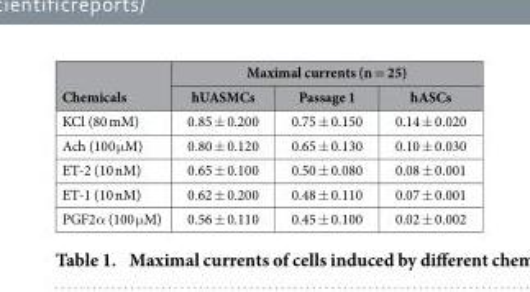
<table><thead><tr><td rowspan="2">Chemicals</td><td colspan="3">Maximal currents (n = 25)</td></tr><tr><td>hUASMCs</td><td>Passage 1</td><td>hASCs</td></tr></thead><tbody><tr><td>KCl (80 mM)</td><td>0.85 ± 0.200</td><td>0.75 ± 0.150</td><td>0.14 ± 0.020</td></tr><tr><td>Ach (100 μ M)</td><td>0.80 ± 0.120</td><td>0.65 ± 0.130</td><td>0.10 ± 0.030</td></tr><tr><td>ET-2 (10 nM)</td><td>0.65 ± 0.100</td><td>0.50 ± 0.080</td><td>0.08 ± 0.001</td></tr><tr><td>ET-1 (10 nM)</td><td>0.62 ± 0.200</td><td>0.48 ± 0.110</td><td>0.07 ± 0.001</td></tr><tr><td>PGF2α (100 μ M)</td><td>0.56 ± 0.110</td><td>0.45 ± 0.100</td><td>0.02 ± 0.002</td></tr></tbody></table>